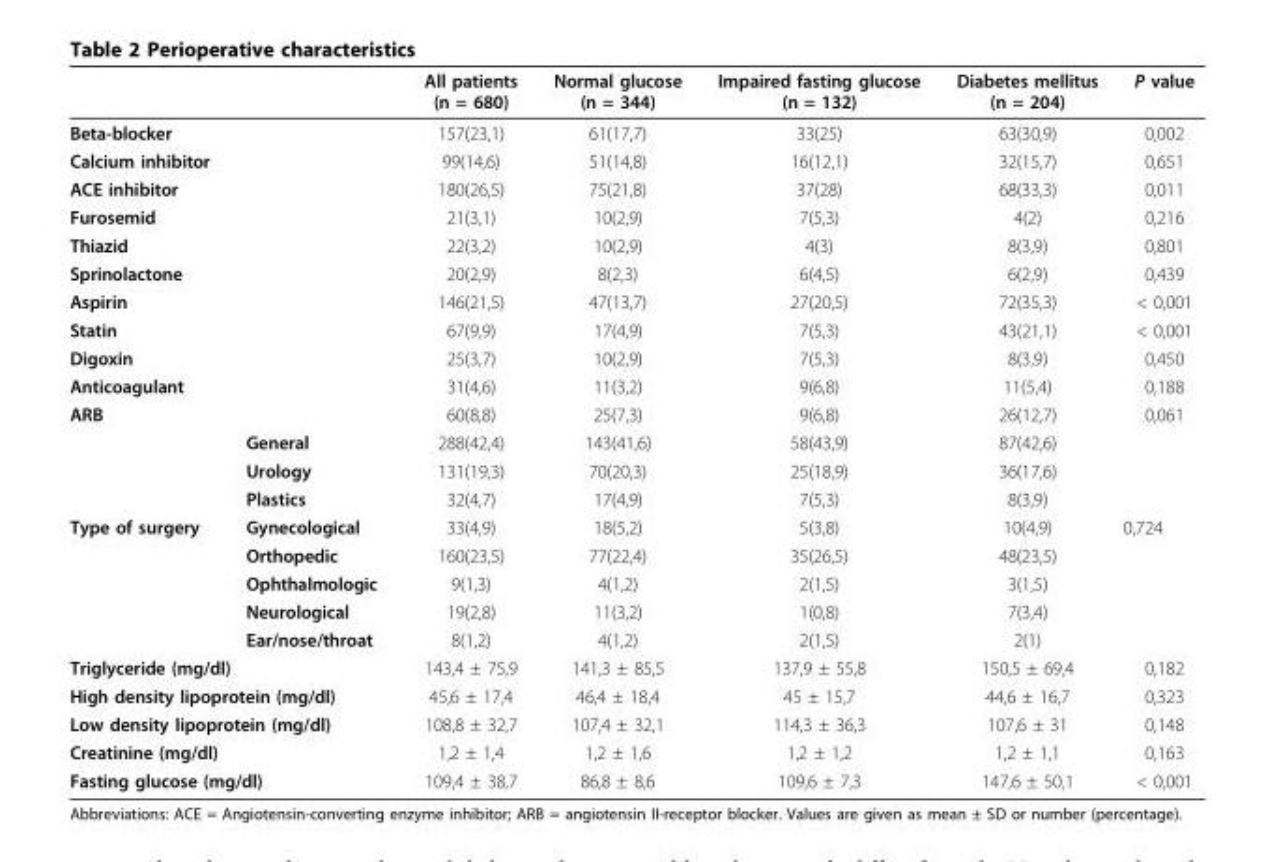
<table><thead><tr><td></td><td></td><td>All patients (n = 680)</td><td>Normal glucose (n = 344)</td><td>Impaired fasting glucose (n = 132)</td><td>Diabetes mellitus (n = 204)</td><td>P value</td></tr></thead><tbody><tr><td>Beta-blocker</td><td></td><td>157(23,1)</td><td>61(17,7)</td><td>33(25)</td><td>63(30,9)</td><td>0,002</td></tr><tr><td>Calcium inhibitor</td><td></td><td>99(14,6)</td><td>51(14,8)</td><td>16(12,1)</td><td>32(15,7)</td><td>0,651</td></tr><tr><td>ACE inhibitor</td><td></td><td>180(26,5)</td><td>75(21,8)</td><td>37(28)</td><td>68(33,3)</td><td>0,011</td></tr><tr><td>Furosemid</td><td></td><td>21(3,1)</td><td>10(2,9)</td><td>7(5,3)</td><td>4(2)</td><td>0,216</td></tr><tr><td>Thiazid</td><td></td><td>22(3,2)</td><td>10(2,9)</td><td>4(3)</td><td>8(3,9)</td><td>0,801</td></tr><tr><td>Sprinolactone</td><td></td><td>20(2,9)</td><td>8(2,3)</td><td>6(4,5)</td><td>6(2,9)</td><td>0,439</td></tr><tr><td>Aspirin</td><td></td><td>146(21,5)</td><td>47(13,7)</td><td>27(20,5)</td><td>72(35,3)</td><td>&lt; 0,001</td></tr><tr><td>Statin</td><td></td><td>67(9,9)</td><td>17(4,9)</td><td>7(5,3)</td><td>43(21,1)</td><td>&lt; 0,001</td></tr><tr><td>Digoxin</td><td></td><td>25(3,7)</td><td>10(2,9)</td><td>7(5,3)</td><td>8(3,9)</td><td>0,450</td></tr><tr><td>Anticoagulant</td><td></td><td>31(4,6)</td><td>11(3,2)</td><td>9(6,8)</td><td>11(5,4)</td><td>0,188</td></tr><tr><td rowspan="4">ARB</td><td></td><td>60(8,8)</td><td>25(7,3)</td><td>9(6,8)</td><td>26(12,7)</td><td>0,061</td></tr><tr><td>General</td><td>288(42,4)</td><td>143(41,6)</td><td>58(43,9)</td><td>87(42,6)</td><td></td></tr><tr><td>Urology</td><td>131(19,3)</td><td>70(20,3)</td><td>25(18,9)</td><td>36(17,6)</td><td></td></tr><tr><td>Plastics</td><td>32(4,7)</td><td>17(4,9)</td><td>7(5,3)</td><td>8(3,9)</td><td></td></tr><tr><td rowspan="5">Type of surgery</td><td>Gynecological</td><td>33(4,9)</td><td>18(5,2)</td><td>5(3,8)</td><td>10(4,9)</td><td>0,724</td></tr><tr><td>Orthopedic</td><td>160(23,5)</td><td>77(22,4)</td><td>35(26,5)</td><td>48(23,5)</td><td></td></tr><tr><td>Ophthalmologic</td><td>9(1,3)</td><td>4(1,2)</td><td>2(1,5)</td><td>3(1,5)</td><td></td></tr><tr><td>Neurological</td><td>19(2,8)</td><td>11(3,2)</td><td>1(0,8)</td><td>7(3,4)</td><td></td></tr><tr><td>Ear/nose/throat</td><td>8(1,2)</td><td>4(1,2)</td><td>2(1,5)</td><td>2(1)</td><td></td></tr><tr><td colspan="2">Triglyceride (mg/dl)</td><td>143,4 ± 75,9</td><td>141,3 ± 85,5</td><td>137,9 ± 55,8</td><td>150,5 ± 69,4</td><td>0,182</td></tr><tr><td colspan="2">High density lipoprotein (mg/dl)</td><td>45,6 ± 17,4</td><td>46,4 ± 18,4</td><td>45 ± 15,7</td><td>44,6 ± 16,7</td><td>0,323</td></tr><tr><td colspan="2">Low density lipoprotein (mg/dl)</td><td>108,8 ± 32,7</td><td>107,4 ± 32,1</td><td>114,3 ± 36,3</td><td>107,6 ± 31</td><td>0,148</td></tr><tr><td colspan="2">Creatinine (mg/dl)</td><td>1,2 ± 1,4</td><td>1,2 ± 1,6</td><td>1,2 ± 1,2</td><td>1,2 ± 1,1</td><td>0,163</td></tr><tr><td colspan="2">Fasting glucose (mg/dl)</td><td>109,4 ± 38,7</td><td>86,8 ± 8,6</td><td>109,6 ± 7,3</td><td>147,6 ± 50,1</td><td>&lt; 0,001</td></tr></tbody></table>